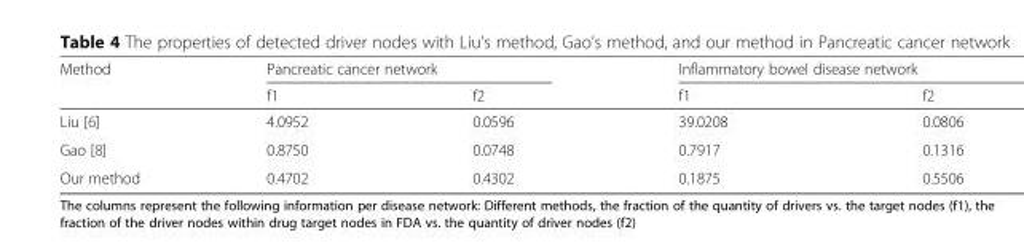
<table><thead><tr><td rowspan="2">Method</td><td colspan="2">Pancreatic cancer network</td><td colspan="2">Inflammatory bowel disease network</td></tr><tr><td>f1</td><td>f2</td><td>f1</td><td>f2</td></tr></thead><tbody><tr><td>Liu [6]</td><td>4.0952</td><td>0.0596</td><td>39.0208</td><td>0.0806</td></tr><tr><td>Gao [8]</td><td>0.8750</td><td>0.0748</td><td>0.7917</td><td>0.1316</td></tr><tr><td>Our method</td><td>0.4702</td><td>0.4302</td><td>0.1875</td><td>0.5506</td></tr></tbody></table>